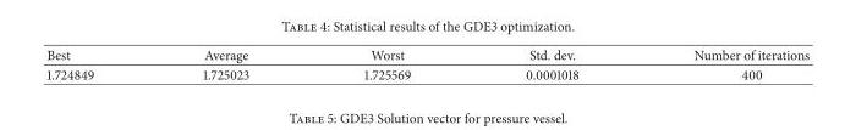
<table><thead><tr><td>Best</td><td>Average</td><td>Worst</td><td>Std. dev.</td><td>Number of iterations</td></tr></thead><tbody><tr><td>1.724849</td><td>1.725023</td><td>1.725569</td><td>0.0001018</td><td>400</td></tr></tbody></table>